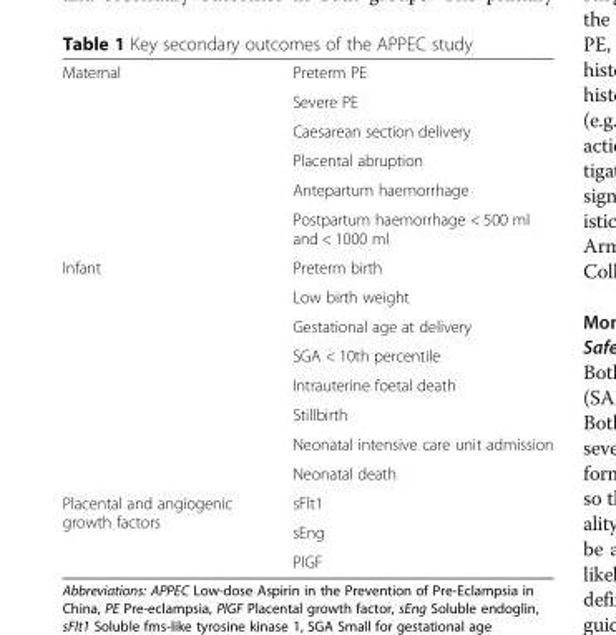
<table><tbody><tr><td rowspan="6">Maternal</td><td>Preterm PE</td></tr><tr><td>Severe PE</td></tr><tr><td>Caesarean section delivery</td></tr><tr><td>Placental abruption</td></tr><tr><td>Antepartum haemorrhage</td></tr><tr><td>Postpartum haemorrhage &lt; 500 ml and &lt; 1000 ml</td></tr><tr><td rowspan="8">Infant</td><td>Preterm birth</td></tr><tr><td>Low birth weight</td></tr><tr><td>Gestational age at delivery</td></tr><tr><td>SGA &lt; 10th percentile</td></tr><tr><td>Intrauterine foetal death</td></tr><tr><td>Stillbirth</td></tr><tr><td>Neonatal intensive care unit admission</td></tr><tr><td>Neonatal death</td></tr><tr><td rowspan="3">Placental and angiogenic growth factors</td><td>sFlt1</td></tr><tr><td>sEng</td></tr><tr><td>PlGF</td></tr></tbody></table>